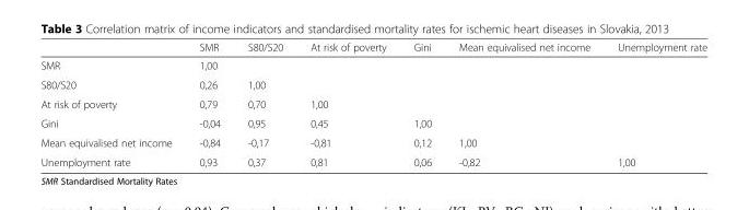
<table><thead><tr><td></td><td>SMR</td><td>S80/S20</td><td>At risk of poverty</td><td>Gini</td><td>Mean equivalised net income</td><td>Unemployment rate</td></tr></thead><tbody><tr><td>SMR</td><td>1,00</td><td></td><td></td><td></td><td></td><td></td></tr><tr><td>S80/S20</td><td>0,26</td><td>1,00</td><td></td><td></td><td></td><td></td></tr><tr><td>At risk of poverty</td><td>0,79</td><td>0,70</td><td>1,00</td><td></td><td></td><td></td></tr><tr><td>Gini</td><td>-0,04</td><td>0,95</td><td>0,45</td><td>1,00</td><td></td><td></td></tr><tr><td>Mean equivalised net income</td><td>-0,84</td><td>-0,17</td><td>-0,81</td><td>0,12</td><td>1,00</td><td></td></tr><tr><td>Unemployment rate</td><td>0,93</td><td>0,37</td><td>0,81</td><td>0,06</td><td>-0,82</td><td>1,00</td></tr></tbody></table>